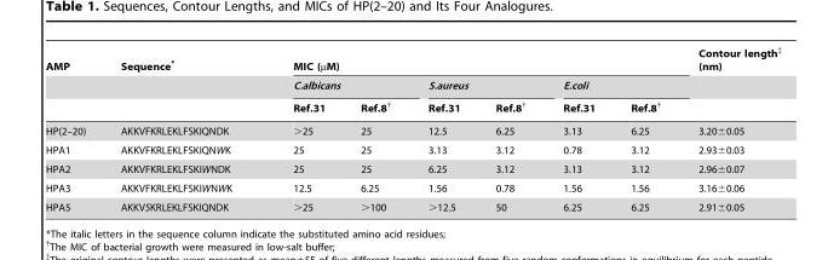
<table><thead><tr><td rowspan="3">AMP</td><td rowspan="3">Sequence*</td><td colspan="6">MIC (µM)</td><td rowspan="3">Contour length‡ (nm)</td></tr><tr><td colspan="2">C.albicans</td><td colspan="2">S.aureus</td><td colspan="2">E.coli</td></tr><tr><td>Ref.31</td><td>Ref.8†</td><td>Ref.31</td><td>Ref.8†</td><td>Ref.31</td><td>Ref.8†</td></tr></thead><tbody><tr><td>HP(2–20)</td><td>AKKVFKRLEKLFSKIQNDK</td><td>&gt;25</td><td>25</td><td>12.5</td><td>6.25</td><td>3.13</td><td>6.25</td><td>3.20±0.05</td></tr><tr><td>HPA1</td><td>AKKVFKRLEKLFSKIQNWK</td><td>25</td><td>25</td><td>3.13</td><td>3.12</td><td>0.78</td><td>3.12</td><td>2.93±0.03</td></tr><tr><td>HPA2</td><td>AKKVFKRLEKLFSKIWNDK</td><td>25</td><td>25</td><td>6.25</td><td>3.12</td><td>3.13</td><td>3.12</td><td>2.96±0.07</td></tr><tr><td>HPA3</td><td>AKKVFKRLEKLFSKIWNWK</td><td>12.5</td><td>6.25</td><td>1.56</td><td>0.78</td><td>1.56</td><td>1.56</td><td>3.16±0.06</td></tr><tr><td>HPA5</td><td>AKKVSKRLEKLFSKIQNDK</td><td>&gt;25</td><td>&gt;100</td><td>&gt;12.5</td><td>50</td><td>6.25</td><td>6.25</td><td>2.91±0.05</td></tr></tbody></table>